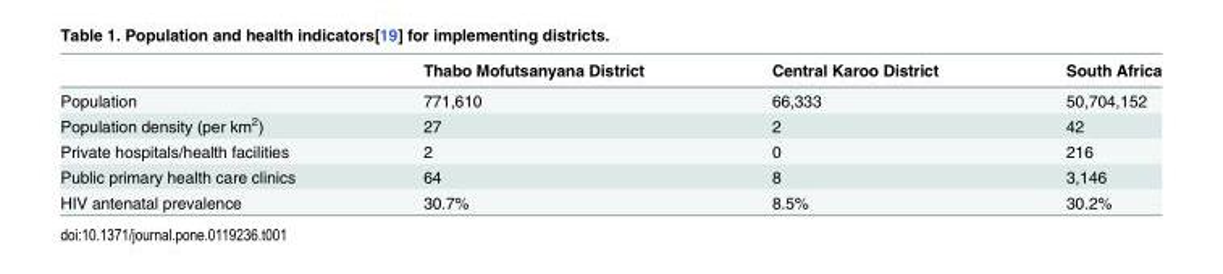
<table><thead><tr><td></td><td>Thabo Mofutsanyana District</td><td>Central Karoo District</td><td>South Africa</td></tr></thead><tbody><tr><td>Population</td><td>771,610</td><td>66,333</td><td>50,704,152</td></tr><tr><td>Population density (per km<sup>2</sup>)</td><td>27</td><td>2</td><td>42</td></tr><tr><td>Private hospitals/health facilities</td><td>2</td><td>0</td><td>216</td></tr><tr><td>Public primary health care clinics</td><td>64</td><td>8</td><td>3,146</td></tr><tr><td>HIV antenatal prevalence</td><td>30.7%</td><td>8.5%</td><td>30.2%</td></tr></tbody></table>